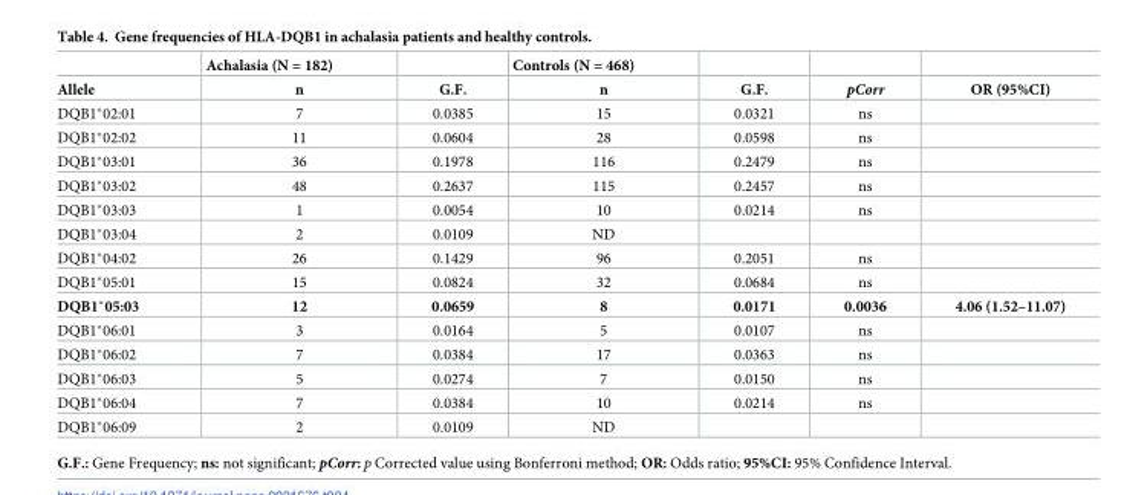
<table><thead><tr><td rowspan="2">Allele</td><td rowspan="2">Achalasia (N = 182) n</td><td rowspan="2">G.F.</td><td rowspan="2">Controls (N = 468) n</td><td rowspan="2">G.F.</td><td rowspan="2">pCorr</td><td rowspan="2">OR (95%CI)</td></tr><tr></tr></thead><tbody><tr><td>DQB1*02:01</td><td>7</td><td>0.0385</td><td>15</td><td>0.0321</td><td>ns</td><td></td></tr><tr><td>DQB1*02:02</td><td>11</td><td>0.0604</td><td>28</td><td>0.0598</td><td>ns</td><td></td></tr><tr><td>DQB1*03:01</td><td>36</td><td>0.1978</td><td>116</td><td>0.2479</td><td>ns</td><td></td></tr><tr><td>DQB1*03:02</td><td>48</td><td>0.2637</td><td>115</td><td>0.2457</td><td>ns</td><td></td></tr><tr><td>DQB1*03:03</td><td>1</td><td>0.0054</td><td>10</td><td>0.0214</td><td>ns</td><td></td></tr><tr><td>DQB1*03:04</td><td>2</td><td>0.0109</td><td>ND</td><td></td><td></td><td></td></tr><tr><td>DQB1*04:02</td><td>26</td><td>0.1429</td><td>96</td><td>0.2051</td><td>ns</td><td></td></tr><tr><td>DQB1*05:01</td><td>15</td><td>0.0824</td><td>32</td><td>0.0684</td><td>ns</td><td></td></tr><tr><td>DQB1*05:03</td><td>12</td><td>0.0659</td><td>8</td><td>0.0171</td><td>0.0036</td><td>4.06 (1.52–11.07)</td></tr><tr><td>DQB1*06:01</td><td>3</td><td>0.0164</td><td>5</td><td>0.0107</td><td>ns</td><td></td></tr><tr><td>DQB1*06:02</td><td>7</td><td>0.0384</td><td>17</td><td>0.0363</td><td>ns</td><td></td></tr><tr><td>DQB1*06:03</td><td>5</td><td>0.0274</td><td>7</td><td>0.0150</td><td>ns</td><td></td></tr><tr><td>DQB1*06:04</td><td>7</td><td>0.0384</td><td>10</td><td>0.0214</td><td>ns</td><td></td></tr><tr><td>DQB1*06:09</td><td>2</td><td>0.0109</td><td>ND</td><td></td><td></td><td></td></tr></tbody></table>